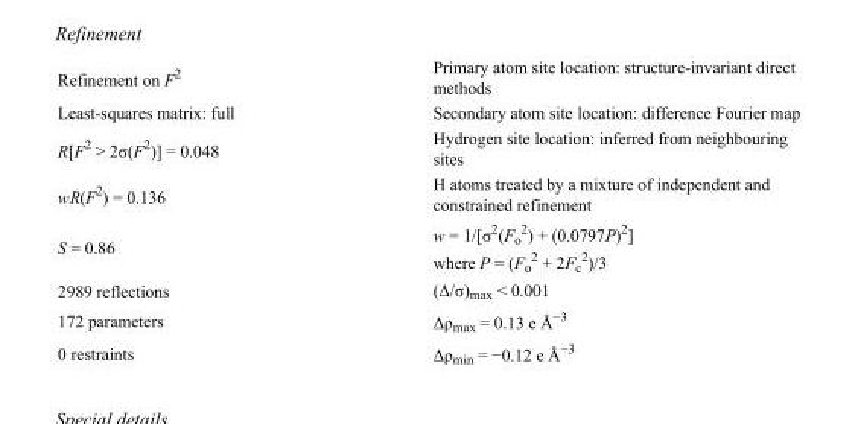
<table><tbody><tr><td>Refinement on F<sup>2</sup></td><td>Primary atom site location: structure-invariant direct methods</td></tr><tr><td>Least-squares matrix: full</td><td>Secondary atom site location: difference Fourier map</td></tr><tr><td>R[F<sup>2</sup> &gt; 2σ(F<sup>2</sup>)] = 0.048</td><td>Hydrogen site location: inferred from neighbouring sites</td></tr><tr><td>wR(F<sup>2</sup>) = 0.136</td><td>H atoms treated by a mixture of independent and constrained refinement</td></tr><tr><td>S = 0.86</td><td>w = 1/[σ<sup>2</sup>(F<sub>o</sub> <sup>2</sup>) + (0.0797P)<sup>2</sup>] where P = (F<sub>o</sub> <sup>2</sup> + 2F<sub>c</sub> <sup>2</sup>)/3</td></tr><tr><td>2989 reflections</td><td>(Δ/σ)<sub>max</sub> &lt; 0.001</td></tr><tr><td>172 parameters</td><td>Δρ<sub>max</sub> = 0.13 e Å<sup>−3</sup></td></tr><tr><td>0 restraints</td><td>Δρ<sub>min</sub> = −0.12 e Å<sup>−3</sup></td></tr></tbody></table>